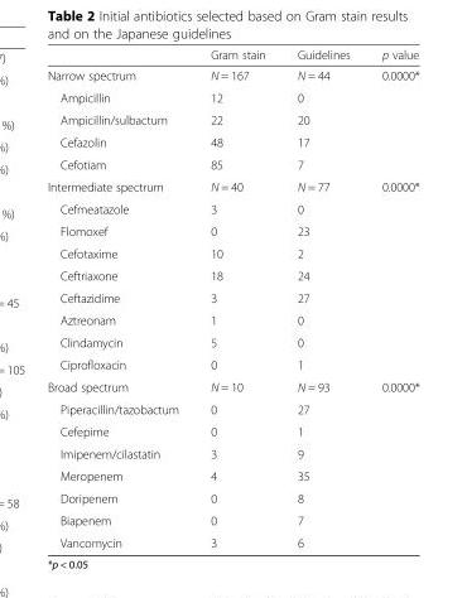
<table><thead><tr><td></td><td>Gram stain</td><td>Guidelines</td><td>p value</td></tr></thead><tbody><tr><td>Narrow spectrum</td><td>N = 167</td><td>N = 44</td><td>0.0000*</td></tr><tr><td>Ampicillin</td><td>12</td><td>0</td><td></td></tr><tr><td>Ampicillin/sulbactum</td><td>22</td><td>20</td><td></td></tr><tr><td>Cefazolin</td><td>48</td><td>17</td><td></td></tr><tr><td>Cefotiam</td><td>85</td><td>7</td><td></td></tr><tr><td>Intermediate spectrum</td><td>N = 40</td><td>N = 77</td><td>0.0000*</td></tr><tr><td>Cefmeatazole</td><td>3</td><td>0</td><td></td></tr><tr><td>Flomoxef</td><td>0</td><td>23</td><td></td></tr><tr><td>Cefotaxime</td><td>10</td><td>2</td><td></td></tr><tr><td>Ceftriaxone</td><td>18</td><td>24</td><td></td></tr><tr><td>Ceftazidime</td><td>3</td><td>27</td><td></td></tr><tr><td>Aztreonam</td><td>1</td><td>0</td><td></td></tr><tr><td>Clindamycin</td><td>5</td><td>0</td><td></td></tr><tr><td>Ciprofloxacin</td><td>0</td><td>1</td><td></td></tr><tr><td>Broad spectrum</td><td>N = 10</td><td>N = 93</td><td>0.0000*</td></tr><tr><td>Piperacillin/tazobactum</td><td>0</td><td>27</td><td></td></tr><tr><td>Cefepime</td><td>0</td><td>1</td><td></td></tr><tr><td>Imipenem/cilastatin</td><td>3</td><td>9</td><td></td></tr><tr><td>Meropenem</td><td>4</td><td>35</td><td></td></tr><tr><td>Doripenem</td><td>0</td><td>8</td><td></td></tr><tr><td>Biapenem</td><td>0</td><td>7</td><td></td></tr><tr><td>Vancomycin</td><td>3</td><td>6</td><td></td></tr></tbody></table>